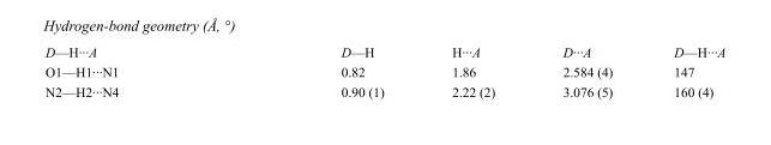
<table><tbody><tr><td>D—H···A</td><td>D—H</td><td>H···A</td><td>D···A</td><td>D—H···A</td></tr><tr><td>O1—H1···N1</td><td>0.82</td><td>1.86</td><td>2.584 (4)</td><td>147</td></tr><tr><td>N2—H2···N4</td><td>0.90 (1)</td><td>2.22 (2)</td><td>3.076 (5)</td><td>160 (4)</td></tr></tbody></table>